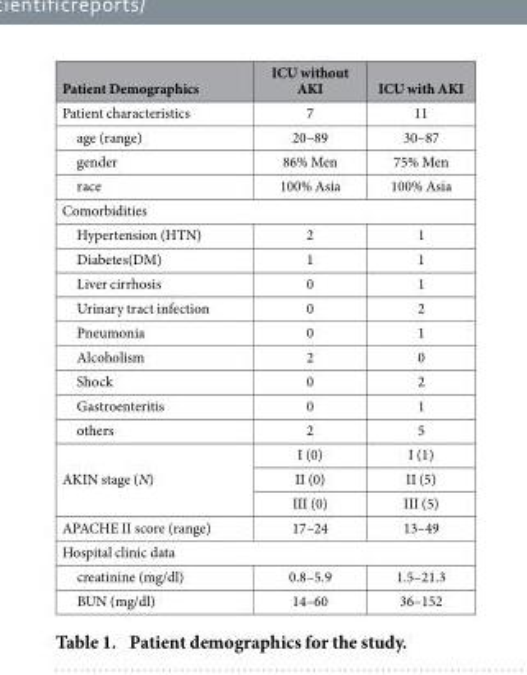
<table><thead><tr><td>Patient Demographics</td><td>ICU without AKI</td><td>ICU with AKI</td></tr></thead><tbody><tr><td>Patient characteristics</td><td>7</td><td>11</td></tr><tr><td>age (range)</td><td>20–89</td><td>30–87</td></tr><tr><td>gender</td><td>86% Men</td><td>75% Men</td></tr><tr><td>race</td><td>100% Asia</td><td>100% Asia</td></tr><tr><td colspan="3">Comorbidities</td></tr><tr><td>Hypertension (HTN)</td><td>2</td><td>1</td></tr><tr><td>Diabetes(DM)</td><td>1</td><td>1</td></tr><tr><td>Liver cirrhosis</td><td>0</td><td>1</td></tr><tr><td>Urinary tract infection</td><td>0</td><td>2</td></tr><tr><td>Pneumonia</td><td>0</td><td>1</td></tr><tr><td>Alcoholism</td><td>2</td><td>0</td></tr><tr><td>Shock</td><td>0</td><td>2</td></tr><tr><td>Gastroenteritis</td><td>0</td><td>1</td></tr><tr><td>others</td><td>2</td><td>5</td></tr><tr><td rowspan="3">AKIN stage (N)</td><td>I (0)</td><td>I (1)</td></tr><tr><td>II (0)</td><td>II (5)</td></tr><tr><td>III (0)</td><td>III (5)</td></tr><tr><td>APACHE II score (range)</td><td>17–24</td><td>13–49</td></tr><tr><td colspan="3">Hospital clinic data</td></tr><tr><td>creatinine (mg/dl)</td><td>0.8–5.9</td><td>1.5–21.3</td></tr><tr><td>BUN (mg/dl)</td><td>14–60</td><td>36–152</td></tr></tbody></table>